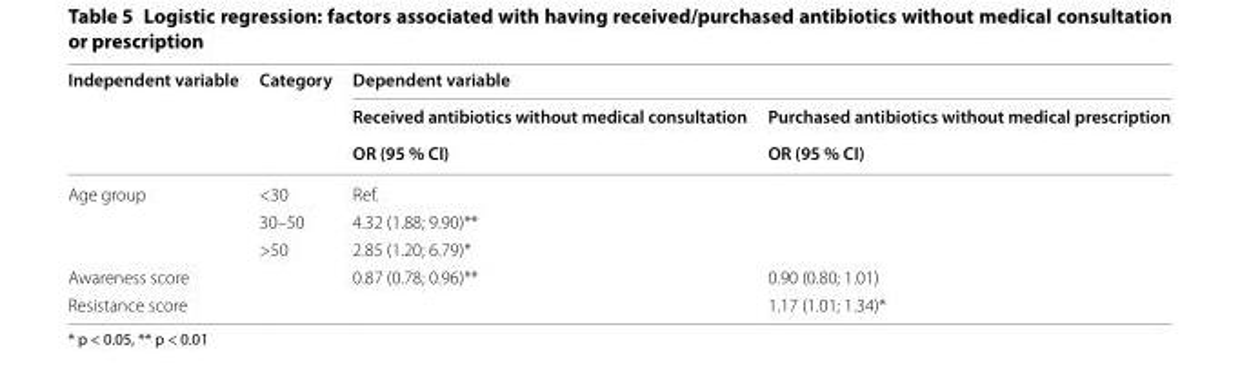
<table><thead><tr><td rowspan="3">Independent variable</td><td rowspan="3">Category</td><td colspan="2">Dependent variable</td></tr><tr><td rowspan="2">Received antibiotics without medical consultation OR (95 % CI)</td><td rowspan="2">Purchased antibiotics without medical prescription OR (95 % CI)</td></tr><tr></tr></thead><tbody><tr><td rowspan="3">Age group</td><td>&lt;30</td><td>Ref.</td><td></td></tr><tr><td>30–50</td><td>4.32 (1.88; 9.90)**</td><td></td></tr><tr><td>&gt;50</td><td>2.85 (1.20; 6.79)*</td><td></td></tr><tr><td>Awareness score</td><td></td><td>0.87 (0.78; 0.96)**</td><td>0.90 (0.80; 1.01)</td></tr><tr><td>Resistance score</td><td></td><td></td><td>1.17 (1.01; 1.34)*</td></tr></tbody></table>